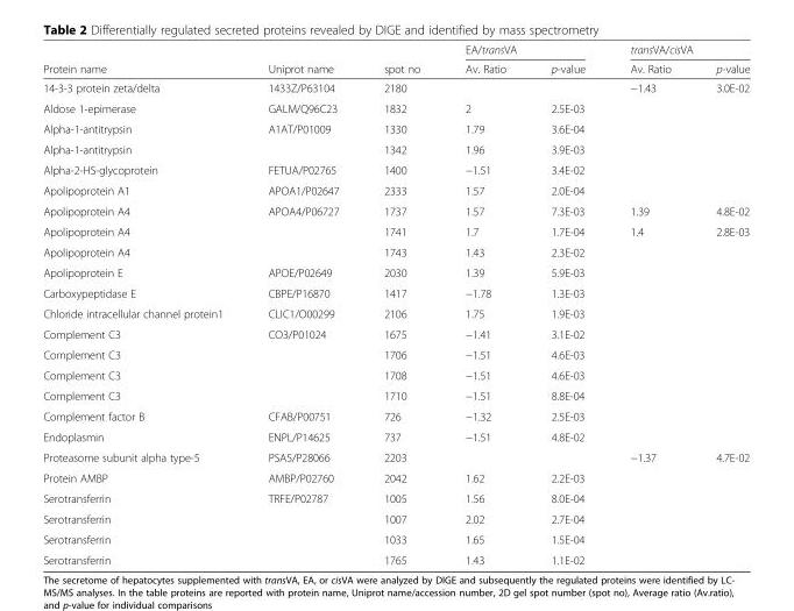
<table><thead><tr><td rowspan="2">Protein name</td><td rowspan="2">Uniprot name</td><td rowspan="2">spot no</td><td colspan="2">EA/transVA</td><td colspan="2">transVA/cisVA</td></tr><tr><td>Av. Ratio</td><td>p-value</td><td>Av. Ratio</td><td>p-value</td></tr></thead><tbody><tr><td>14-3-3 protein zeta/delta</td><td>1433Z/P63104</td><td>2180</td><td></td><td></td><td>−1.43</td><td>3.0E-02</td></tr><tr><td>Aldose 1-epimerase</td><td>GALM/Q96C23</td><td>1832</td><td>2</td><td>2.5E-03</td><td></td><td></td></tr><tr><td>Alpha-1-antitrypsin</td><td>A1AT/P01009</td><td>1330</td><td>1.79</td><td>3.6E-04</td><td></td><td></td></tr><tr><td>Alpha-1-antitrypsin</td><td></td><td>1342</td><td>1.96</td><td>3.9E-03</td><td></td><td></td></tr><tr><td>Alpha-2-HS-glycoprotein</td><td>FETUA/P02765</td><td>1400</td><td>−1.51</td><td>3.4E-02</td><td></td><td></td></tr><tr><td>Apolipoprotein A1</td><td>APOA1/P02647</td><td>2333</td><td>1.57</td><td>2.0E-04</td><td></td><td></td></tr><tr><td>Apolipoprotein A4</td><td>APOA4/P06727</td><td>1737</td><td>1.57</td><td>7.3E-03</td><td>1.39</td><td>4.8E-02</td></tr><tr><td>Apolipoprotein A4</td><td></td><td>1741</td><td>1.7</td><td>1.7E-04</td><td>1.4</td><td>2.8E-03</td></tr><tr><td>Apolipoprotein A4</td><td></td><td>1743</td><td>1.43</td><td>2.3E-02</td><td></td><td></td></tr><tr><td>Apolipoprotein E</td><td>APOE/P02649</td><td>2030</td><td>1.39</td><td>5.9E-03</td><td></td><td></td></tr><tr><td>Carboxypeptidase E</td><td>CBPE/P16870</td><td>1417</td><td>−1.78</td><td>1.3E-03</td><td></td><td></td></tr><tr><td>Chloride intracellular channel protein1</td><td>CLIC1/O00299</td><td>2106</td><td>1.75</td><td>1.9E-03</td><td></td><td></td></tr><tr><td>Complement C3</td><td>CO3/P01024</td><td>1675</td><td>−1.41</td><td>3.1E-02</td><td></td><td></td></tr><tr><td>Complement C3</td><td></td><td>1706</td><td>−1.51</td><td>4.6E-03</td><td></td><td></td></tr><tr><td>Complement C3</td><td></td><td>1708</td><td>−1.51</td><td>4.6E-03</td><td></td><td></td></tr><tr><td>Complement C3</td><td></td><td>1710</td><td>−1.51</td><td>8.8E-04</td><td></td><td></td></tr><tr><td>Complement factor B</td><td>CFAB/P00751</td><td>726</td><td>−1.32</td><td>2.5E-03</td><td></td><td></td></tr><tr><td>Endoplasmin</td><td>ENPL/P14625</td><td>737</td><td>−1.51</td><td>4.8E-02</td><td></td><td></td></tr><tr><td>Proteasome subunit alpha type-5</td><td>PSA5/P28066</td><td>2203</td><td></td><td></td><td>−1.37</td><td>4.7E-02</td></tr><tr><td>Protein AMBP</td><td>AMBP/P02760</td><td>2042</td><td>1.62</td><td>2.2E-03</td><td></td><td></td></tr><tr><td>Serotransferrin</td><td>TRFE/P02787</td><td>1005</td><td>1.56</td><td>8.0E-04</td><td></td><td></td></tr><tr><td>Serotransferrin</td><td></td><td>1007</td><td>2.02</td><td>2.7E-04</td><td></td><td></td></tr><tr><td>Serotransferrin</td><td></td><td>1033</td><td>1.65</td><td>1.5E-04</td><td></td><td></td></tr><tr><td>Serotransferrin</td><td></td><td>1765</td><td>1.43</td><td>1.1E-02</td><td></td><td></td></tr></tbody></table>